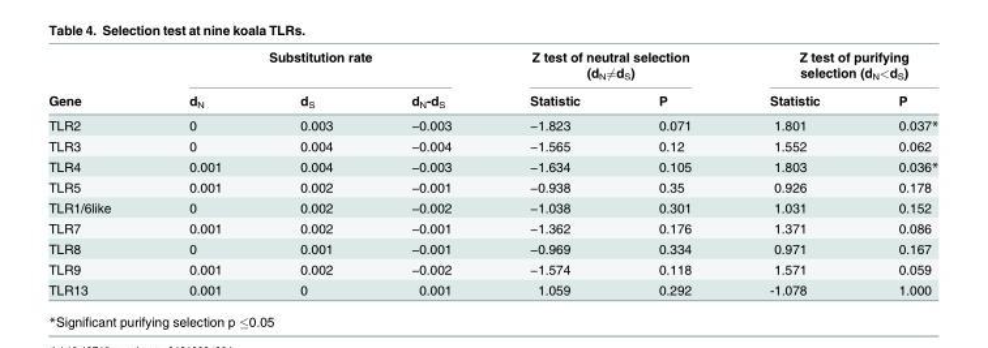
<table><thead><tr><td rowspan="2">Gene</td><td colspan="3">Substitution rate</td><td colspan="2">Z test of neutral selection (dN6¼dS)</td><td colspan="2">Z test of purifying selection (d<sub>N</sub>&lt;d<sub>S</sub>)</td></tr><tr><td>d<sub>N</sub></td><td>d<sub>S</sub></td><td>d<sub>N</sub>-d<sub>S</sub></td><td>Statistic</td><td>P</td><td>Statistic</td><td>P</td></tr></thead><tbody><tr><td>TLR2</td><td>0</td><td>0.003</td><td>−0.003</td><td>−1.823</td><td>0.071</td><td>1.801</td><td>0.037*</td></tr><tr><td>TLR3</td><td>0</td><td>0.004</td><td>−0.004</td><td>−1.565</td><td>0.12</td><td>1.552</td><td>0.062</td></tr><tr><td>TLR4</td><td>0.001</td><td>0.004</td><td>−0.003</td><td>−1.634</td><td>0.105</td><td>1.803</td><td>0.036*</td></tr><tr><td>TLR5</td><td>0.001</td><td>0.002</td><td>−0.001</td><td>−0.938</td><td>0.35</td><td>0.926</td><td>0.178</td></tr><tr><td>TLR1/6like</td><td>0</td><td>0.002</td><td>−0.002</td><td>−1.038</td><td>0.301</td><td>1.031</td><td>0.152</td></tr><tr><td>TLR7</td><td>0.001</td><td>0.002</td><td>−0.001</td><td>−1.362</td><td>0.176</td><td>1.371</td><td>0.086</td></tr><tr><td>TLR8</td><td>0</td><td>0.001</td><td>−0.001</td><td>−0.969</td><td>0.334</td><td>0.971</td><td>0.167</td></tr><tr><td>TLR9</td><td>0.001</td><td>0.002</td><td>−0.002</td><td>−1.574</td><td>0.118</td><td>1.571</td><td>0.059</td></tr><tr><td>TLR13</td><td>0.001</td><td>0</td><td>0.001</td><td>1.059</td><td>0.292</td><td>-1.078</td><td>1.000</td></tr></tbody></table>